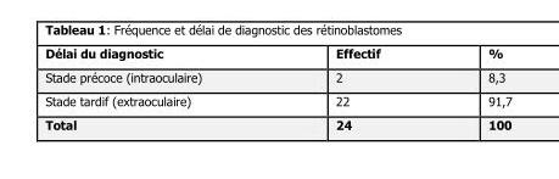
<table><thead><tr><td>Délai du diagnostic</td><td>Effectif</td><td>%</td></tr></thead><tbody><tr><td>Stade précoce (intraoculaire)</td><td>2</td><td>8,3</td></tr><tr><td>Stade tardif (extraoculaire)</td><td>22</td><td>91,7</td></tr><tr><td>Total</td><td>24</td><td>100</td></tr></tbody></table>